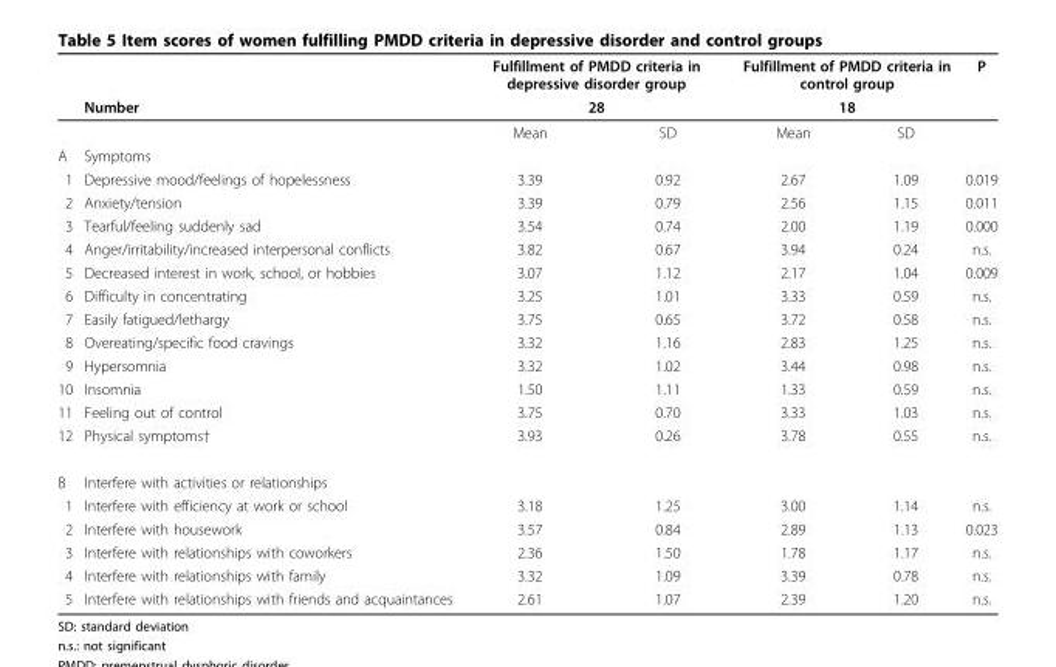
<table><thead><tr><td rowspan="3"></td><td rowspan="3">Number</td><td rowspan="2" colspan="2">Fulfillment of PMDD criteria in depressive disorder group 28</td><td rowspan="2" colspan="2">Fulfillment of PMDD criteria in control group 18</td><td rowspan="3">P</td></tr><tr></tr><tr><td>Mean</td><td>SD</td><td>Mean</td><td>SD</td></tr></thead><tbody><tr><td>A</td><td>Symptoms</td><td></td><td></td><td></td><td></td><td></td></tr><tr><td>1</td><td>Depressive mood/feelings of hopelessness</td><td>3.39</td><td>0.92</td><td>2.67</td><td>1.09</td><td>0.019</td></tr><tr><td>2</td><td>Anxiety/tension</td><td>3.39</td><td>0.79</td><td>2.56</td><td>1.15</td><td>0.011</td></tr><tr><td>3</td><td>Tearful/feeling suddenly sad</td><td>3.54</td><td>0.74</td><td>2.00</td><td>1.19</td><td>0.000</td></tr><tr><td>4</td><td>Anger/irritability/increased interpersonal conflicts</td><td>3.82</td><td>0.67</td><td>3.94</td><td>0.24</td><td>n.s.</td></tr><tr><td>5</td><td>Decreased interest in work, school, or hobbies</td><td>3.07</td><td>1.12</td><td>2.17</td><td>1.04</td><td>0.009</td></tr><tr><td>6</td><td>Difficulty in concentrating</td><td>3.25</td><td>1.01</td><td>3.33</td><td>0.59</td><td>n.s.</td></tr><tr><td>7</td><td>Easily fatigued/lethargy</td><td>3.75</td><td>0.65</td><td>3.72</td><td>0.58</td><td>n.s.</td></tr><tr><td>8</td><td>Overeating/specific food cravings</td><td>3.32</td><td>1.16</td><td>2.83</td><td>1.25</td><td>n.s.</td></tr><tr><td>9</td><td>Hypersomnia</td><td>3.32</td><td>1.02</td><td>3.44</td><td>0.98</td><td>n.s.</td></tr><tr><td>10</td><td>Insomnia</td><td>1.50</td><td>1.11</td><td>1.33</td><td>0.59</td><td>n.s.</td></tr><tr><td>11</td><td>Feeling out of control</td><td>3.75</td><td>0.70</td><td>3.33</td><td>1.03</td><td>n.s.</td></tr><tr><td>12</td><td>Physical symptoms†</td><td>3.93</td><td>0.26</td><td>3.78</td><td>0.55</td><td>n.s.</td></tr><tr><td>B</td><td>Interfere with activities or relationships</td><td></td><td></td><td></td><td></td><td></td></tr><tr><td>1</td><td>Interfere with efficiency at work or school</td><td>3.18</td><td>1.25</td><td>3.00</td><td>1.14</td><td>n.s.</td></tr><tr><td>2</td><td>Interfere with housework</td><td>3.57</td><td>0.84</td><td>2.89</td><td>1.13</td><td>0.023</td></tr><tr><td>3</td><td>Interfere with relationships with coworkers</td><td>2.36</td><td>1.50</td><td>1.78</td><td>1.17</td><td>n.s.</td></tr><tr><td>4</td><td>Interfere with relationships with family</td><td>3.32</td><td>1.09</td><td>3.39</td><td>0.78</td><td>n.s.</td></tr><tr><td>5</td><td>Interfere with relationships with friends and acquaintances</td><td>2.61</td><td>1.07</td><td>2.39</td><td>1.20</td><td>n.s.</td></tr></tbody></table>